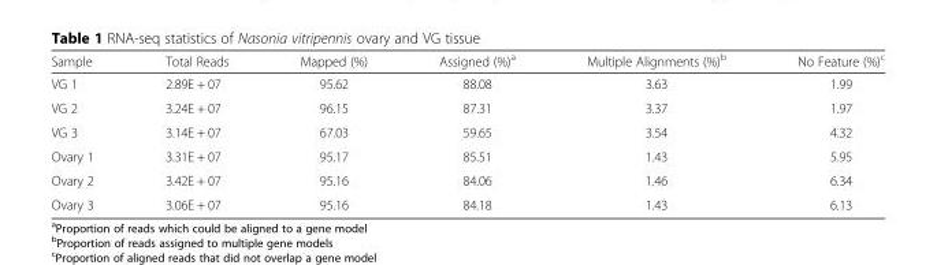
<table><thead><tr><td>Sample</td><td>Total Reads</td><td>Mapped (%)</td><td>Assigned (%)<sup>a</sup></td><td>Multiple Alignments (%)<sup>b</sup></td><td>No Feature (%)<sup>c</sup></td></tr></thead><tbody><tr><td>VG 1</td><td>2.89E + 07</td><td>95.62</td><td>88.08</td><td>3.63</td><td>1.99</td></tr><tr><td>VG 2</td><td>3.24E + 07</td><td>96.15</td><td>87.31</td><td>3.37</td><td>1.97</td></tr><tr><td>VG 3</td><td>3.14E + 07</td><td>67.03</td><td>59.65</td><td>3.54</td><td>4.32</td></tr><tr><td>Ovary 1</td><td>3.31E + 07</td><td>95.17</td><td>85.51</td><td>1.43</td><td>5.95</td></tr><tr><td>Ovary 2</td><td>3.42E + 07</td><td>95.16</td><td>84.06</td><td>1.46</td><td>6.34</td></tr><tr><td>Ovary 3</td><td>3.06E + 07</td><td>95.16</td><td>84.18</td><td>1.43</td><td>6.13</td></tr></tbody></table>